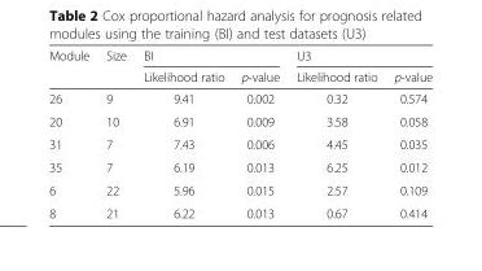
<table><thead><tr><td rowspan="2">Module</td><td rowspan="2">Size</td><td colspan="2">BI</td><td colspan="2">U3</td></tr><tr><td>Likelihood ratio</td><td>p-value</td><td>Likelihood ratio</td><td>p-value</td></tr></thead><tbody><tr><td>26</td><td>9</td><td>9.41</td><td>0.002</td><td>0.32</td><td>0.574</td></tr><tr><td>20</td><td>10</td><td>6.91</td><td>0.009</td><td>3.58</td><td>0.058</td></tr><tr><td>31</td><td>7</td><td>7.43</td><td>0.006</td><td>4.45</td><td>0.035</td></tr><tr><td>35</td><td>7</td><td>6.19</td><td>0.013</td><td>6.25</td><td>0.012</td></tr><tr><td>6</td><td>22</td><td>5.96</td><td>0.015</td><td>2.57</td><td>0.109</td></tr><tr><td>8</td><td>21</td><td>6.22</td><td>0.013</td><td>0.67</td><td>0.414</td></tr></tbody></table>